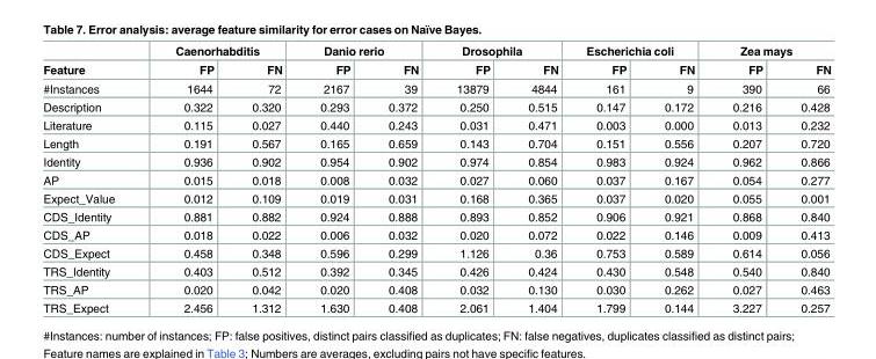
<table><thead><tr><td rowspan="2">Feature</td><td colspan="2">Caenorhabditis</td><td colspan="2">Danio rerio</td><td colspan="2">Drosophila</td><td colspan="2">Escherichia coli</td><td colspan="2">Zea mays</td></tr><tr><td>FP</td><td>FN</td><td>FP</td><td>FN</td><td>FP</td><td>FN</td><td>FP</td><td>FN</td><td>FP</td><td>FN</td></tr></thead><tbody><tr><td>#Instances</td><td>1644</td><td>72</td><td>2167</td><td>39</td><td>13879</td><td>4844</td><td>161</td><td>9</td><td>390</td><td>66</td></tr><tr><td>Description</td><td>0.322</td><td>0.320</td><td>0.293</td><td>0.372</td><td>0.250</td><td>0.515</td><td>0.147</td><td>0.172</td><td>0.216</td><td>0.428</td></tr><tr><td>Literature</td><td>0.115</td><td>0.027</td><td>0.440</td><td>0.243</td><td>0.031</td><td>0.471</td><td>0.003</td><td>0.000</td><td>0.013</td><td>0.232</td></tr><tr><td>Length</td><td>0.191</td><td>0.567</td><td>0.165</td><td>0.659</td><td>0.143</td><td>0.704</td><td>0.151</td><td>0.556</td><td>0.207</td><td>0.720</td></tr><tr><td>Identity</td><td>0.936</td><td>0.902</td><td>0.954</td><td>0.902</td><td>0.974</td><td>0.854</td><td>0.983</td><td>0.924</td><td>0.962</td><td>0.866</td></tr><tr><td>AP</td><td>0.015</td><td>0.018</td><td>0.008</td><td>0.032</td><td>0.027</td><td>0.060</td><td>0.037</td><td>0.167</td><td>0.054</td><td>0.277</td></tr><tr><td>Expect_Value</td><td>0.012</td><td>0.109</td><td>0.019</td><td>0.031</td><td>0.168</td><td>0.365</td><td>0.037</td><td>0.020</td><td>0.055</td><td>0.001</td></tr><tr><td>CDS_Identity</td><td>0.881</td><td>0.882</td><td>0.924</td><td>0.888</td><td>0.893</td><td>0.852</td><td>0.906</td><td>0.921</td><td>0.868</td><td>0.840</td></tr><tr><td>CDS_AP</td><td>0.018</td><td>0.022</td><td>0.006</td><td>0.032</td><td>0.020</td><td>0.072</td><td>0.022</td><td>0.146</td><td>0.009</td><td>0.413</td></tr><tr><td>CDS_Expect</td><td>0.458</td><td>0.348</td><td>0.596</td><td>0.299</td><td>1.126</td><td>0.36</td><td>0.753</td><td>0.589</td><td>0.614</td><td>0.056</td></tr><tr><td>TRS_Identity</td><td>0.403</td><td>0.512</td><td>0.392</td><td>0.345</td><td>0.426</td><td>0.424</td><td>0.430</td><td>0.548</td><td>0.540</td><td>0.840</td></tr><tr><td>TRS_AP</td><td>0.020</td><td>0.042</td><td>0.020</td><td>0.408</td><td>0.032</td><td>0.130</td><td>0.030</td><td>0.262</td><td>0.027</td><td>0.463</td></tr><tr><td>TRS_Expect</td><td>2.456</td><td>1.312</td><td>1.630</td><td>0.408</td><td>2.061</td><td>1.404</td><td>1.799</td><td>0.144</td><td>3.227</td><td>0.257</td></tr></tbody></table>